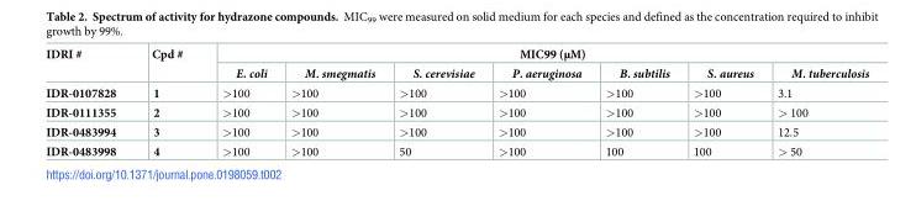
<table><thead><tr><td rowspan="2">IDRI #</td><td rowspan="2">Cpd #</td><td colspan="7">MIC99 (μM)</td></tr><tr><td>E. coli</td><td>M. smegmatis</td><td>S. cerevisiae</td><td>P. aeruginosa</td><td>B. subtilis</td><td>S. aureus</td><td>M. tuberculosis</td></tr></thead><tbody><tr><td>IDR-0107828</td><td>1</td><td>&gt;100</td><td>&gt;100</td><td>&gt;100</td><td>&gt;100</td><td>&gt;100</td><td>&gt;100</td><td>3.1</td></tr><tr><td>IDR-0111355</td><td>2</td><td>&gt;100</td><td>&gt;100</td><td>&gt;100</td><td>&gt;100</td><td>&gt;100</td><td>&gt;100</td><td>&gt; 100</td></tr><tr><td>IDR-0483994</td><td>3</td><td>&gt;100</td><td>&gt;100</td><td>&gt;100</td><td>&gt;100</td><td>&gt;100</td><td>&gt;100</td><td>12.5</td></tr><tr><td>IDR-0483998</td><td>4</td><td>&gt;100</td><td>&gt;100</td><td>50</td><td>&gt;100</td><td>100</td><td>100</td><td>&gt; 50</td></tr></tbody></table>